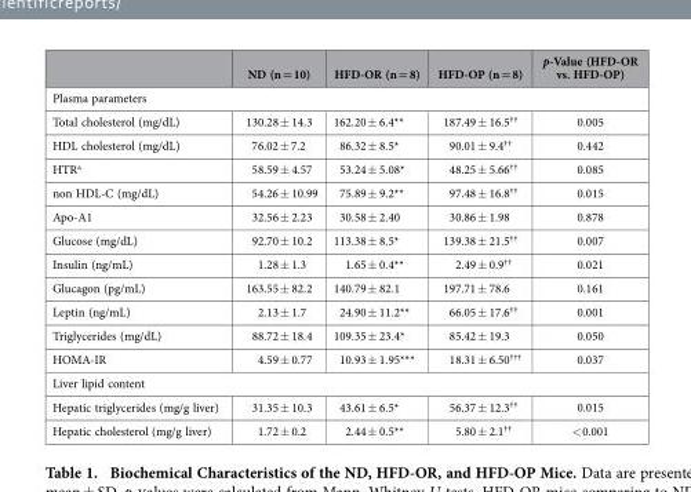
<table><thead><tr><td></td><td>ND (n = 10)</td><td>HFD-OR (n = 8)</td><td>HFD-OP (n = 8)</td><td>p-Value (HFD-OR vs. HFD-OP)</td></tr></thead><tbody><tr><td colspan="5">Plasma parameters</td></tr><tr><td>Total cholesterol (mg/dL)</td><td>130.28 ± 14.3</td><td>162.20 ± 6.4**</td><td>187.49 ± 16.5<sup>††</sup></td><td>0.005</td></tr><tr><td>HDL cholesterol (mg/dL)</td><td>76.02 ± 7.2</td><td>86.32 ± 8.5*</td><td>90.01 ± 9.4<sup>††</sup></td><td>0.442</td></tr><tr><td>HTR<sup>a</sup></td><td>58.59 ± 4.57</td><td>53.24 ± 5.08*</td><td>48.25 ± 5.66<sup>††</sup></td><td>0.085</td></tr><tr><td>non HDL-C (mg/dL)</td><td>54.26 ± 10.99</td><td>75.89 ± 9.2**</td><td>97.48 ± 16.8<sup>††</sup></td><td>0.015</td></tr><tr><td>Apo-A1</td><td>32.56 ± 2.23</td><td>30.58 ± 2.40</td><td>30.86 ± 1.98</td><td>0.878</td></tr><tr><td>Glucose (mg/dL)</td><td>92.70 ± 10.2</td><td>113.38 ± 8.5*</td><td>139.38 ± 21.5<sup>††</sup></td><td>0.007</td></tr><tr><td>Insulin (ng/mL)</td><td>1.28 ± 1.3</td><td>1.65 ± 0.4**</td><td>2.49 ± 0.9<sup>††</sup></td><td>0.021</td></tr><tr><td>Glucagon (pg/mL)</td><td>163.55 ± 82.2</td><td>140.79 ± 82.1</td><td>197.71 ± 78.6</td><td>0.161</td></tr><tr><td>Leptin (ng/mL)</td><td>2.13 ± 1.7</td><td>24.90 ± 11.2**</td><td>66.05 ± 17.6<sup>††</sup></td><td>0.001</td></tr><tr><td>Triglycerides (mg/dL)</td><td>88.72 ± 18.4</td><td>109.35 ± 23.4*</td><td>85.42 ± 19.3</td><td>0.050</td></tr><tr><td>HOMA-IR</td><td>4.59 ± 0.77</td><td>10.93 ± 1.95***</td><td>18.31 ± 6.50<sup>†††</sup></td><td>0.037</td></tr><tr><td colspan="5">Liver lipid content</td></tr><tr><td>Hepatic triglycerides (mg/g liver)</td><td>31.35 ± 10.3</td><td>43.61 ± 6.5*</td><td>56.37 ± 12.3<sup>††</sup></td><td>0.015</td></tr><tr><td>Hepatic cholesterol (mg/g liver)</td><td>1.72 ± 0.2</td><td>2.44 ± 0.5**</td><td>5.80 ± 2.1<sup>††</sup></td><td>&lt; 0.001</td></tr></tbody></table>